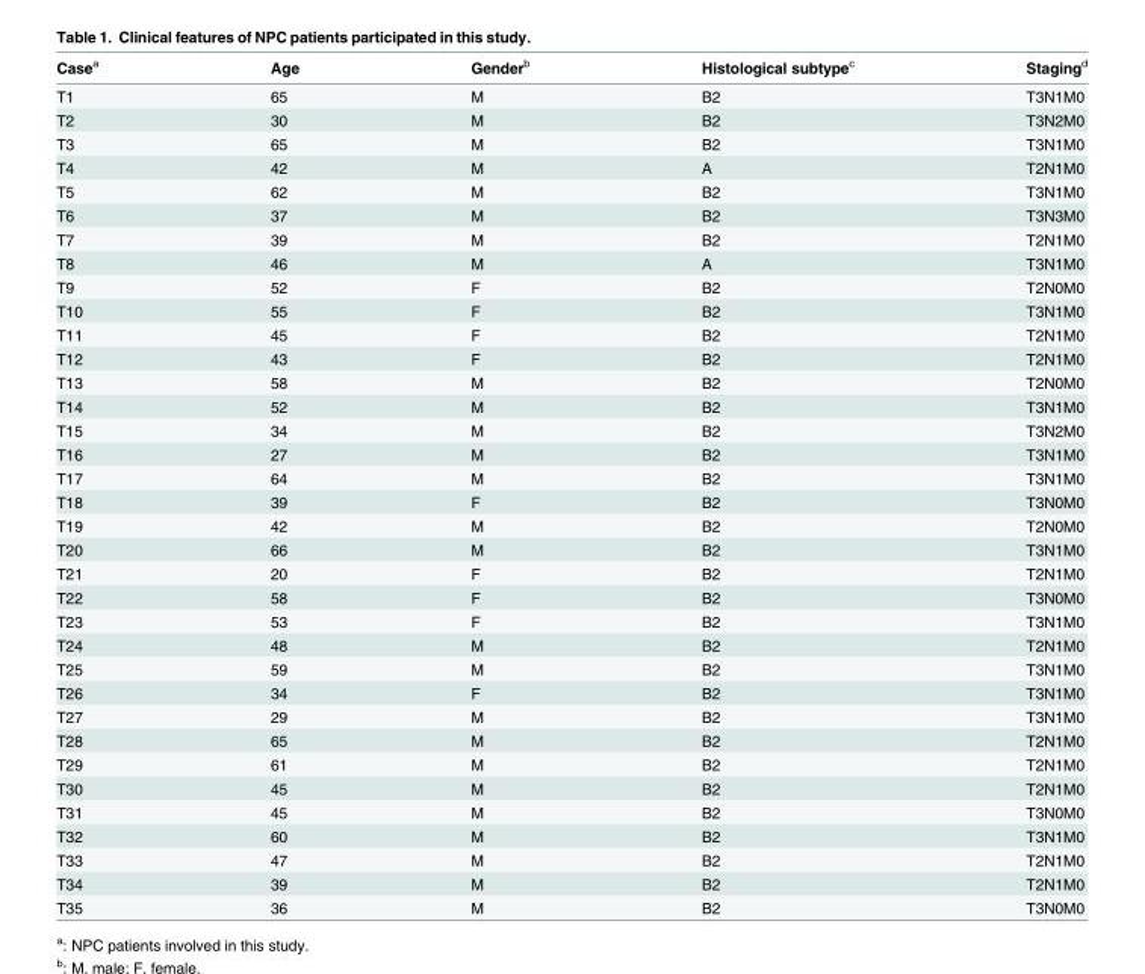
<table><thead><tr><td>Case<sup>a</sup></td><td>Age</td><td>Gender<sup>b</sup></td><td>Histological subtype<sup>c</sup></td><td>Staging<sup>d</sup></td></tr></thead><tbody><tr><td>T1</td><td>65</td><td>M</td><td>B2</td><td>T3N1M0</td></tr><tr><td>T2</td><td>30</td><td>M</td><td>B2</td><td>T3N2M0</td></tr><tr><td>T3</td><td>65</td><td>M</td><td>B2</td><td>T3N1M0</td></tr><tr><td>T4</td><td>42</td><td>M</td><td>A</td><td>T2N1M0</td></tr><tr><td>T5</td><td>62</td><td>M</td><td>B2</td><td>T3N1M0</td></tr><tr><td>T6</td><td>37</td><td>M</td><td>B2</td><td>T3N3M0</td></tr><tr><td>T7</td><td>39</td><td>M</td><td>B2</td><td>T2N1M0</td></tr><tr><td>T8</td><td>46</td><td>M</td><td>A</td><td>T3N1M0</td></tr><tr><td>T9</td><td>52</td><td>F</td><td>B2</td><td>T2N0M0</td></tr><tr><td>T10</td><td>55</td><td>F</td><td>B2</td><td>T3N1M0</td></tr><tr><td>T11</td><td>45</td><td>F</td><td>B2</td><td>T2N1M0</td></tr><tr><td>T12</td><td>43</td><td>F</td><td>B2</td><td>T2N1M0</td></tr><tr><td>T13</td><td>58</td><td>M</td><td>B2</td><td>T2N0M0</td></tr><tr><td>T14</td><td>52</td><td>M</td><td>B2</td><td>T3N1M0</td></tr><tr><td>T15</td><td>34</td><td>M</td><td>B2</td><td>T3N2M0</td></tr><tr><td>T16</td><td>27</td><td>M</td><td>B2</td><td>T3N1M0</td></tr><tr><td>T17</td><td>64</td><td>M</td><td>B2</td><td>T3N1M0</td></tr><tr><td>T18</td><td>39</td><td>F</td><td>B2</td><td>T3N0M0</td></tr><tr><td>T19</td><td>42</td><td>M</td><td>B2</td><td>T2N0M0</td></tr><tr><td>T20</td><td>66</td><td>M</td><td>B2</td><td>T3N1M0</td></tr><tr><td>T21</td><td>20</td><td>F</td><td>B2</td><td>T2N1M0</td></tr><tr><td>T22</td><td>58</td><td>F</td><td>B2</td><td>T3N0M0</td></tr><tr><td>T23</td><td>53</td><td>F</td><td>B2</td><td>T3N1M0</td></tr><tr><td>T24</td><td>48</td><td>M</td><td>B2</td><td>T2N1M0</td></tr><tr><td>T25</td><td>59</td><td>M</td><td>B2</td><td>T3N1M0</td></tr><tr><td>T26</td><td>34</td><td>F</td><td>B2</td><td>T3N1M0</td></tr><tr><td>T27</td><td>29</td><td>M</td><td>B2</td><td>T3N1M0</td></tr><tr><td>T28</td><td>65</td><td>M</td><td>B2</td><td>T2N1M0</td></tr><tr><td>T29</td><td>61</td><td>M</td><td>B2</td><td>T2N1M0</td></tr><tr><td>T30</td><td>45</td><td>M</td><td>B2</td><td>T2N1M0</td></tr><tr><td>T31</td><td>45</td><td>M</td><td>B2</td><td>T3N0M0</td></tr><tr><td>T32</td><td>60</td><td>M</td><td>B2</td><td>T3N1M0</td></tr><tr><td>T33</td><td>47</td><td>M</td><td>B2</td><td>T2N1M0</td></tr><tr><td>T34</td><td>39</td><td>M</td><td>B2</td><td>T2N1M0</td></tr><tr><td>T35</td><td>36</td><td>M</td><td>B2</td><td>T3N0M0</td></tr></tbody></table>